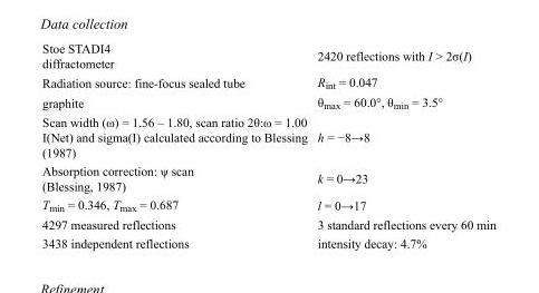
<table><tbody><tr><td>Stoe STADI4 diffractometer</td><td>2420 reflections with I &gt; 2σ(I)</td></tr><tr><td>Radiation source: fine-focus sealed tube</td><td>R<sub>int</sub> = 0.047</td></tr><tr><td>graphite</td><td>θ<sub>max</sub> = 60.0°, θ<sub>min</sub> = 3.5°</td></tr><tr><td>Scan width (ω) = 1.56 – 1.80, scan ratio 2θ:ω = 1.00 I(Net) and sigma(I) calculated according to Blessing (1987)</td><td>h = −8→8</td></tr><tr><td>Absorption correction: ψ scan (Blessing, 1987)</td><td>k = 0→23</td></tr><tr><td>T<sub>min</sub> = 0.346, T<sub>max</sub> = 0.687</td><td>l = 0→17</td></tr><tr><td>4297 measured reflections</td><td>3 standard reflections every 60 min</td></tr><tr><td>3438 independent reflections</td><td>intensity decay: 4.7%</td></tr></tbody></table>